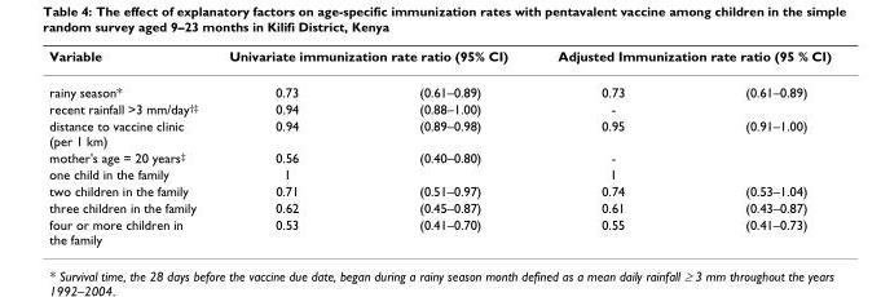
<table><thead><tr><td rowspan="2">Variable rainy season*</td><td colspan="2">Univariate immunization rate ratio (95% CI)</td><td colspan="2">Adjusted Immunization rate ratio (95 % CI)</td></tr><tr><td>0.73</td><td>(0.61–0.89)</td><td>0.73</td><td>(0.61–0.89)</td></tr></thead><tbody><tr><td>recent rainfall &gt;3 mm/day†‡</td><td>0.94</td><td>(0.88–1.00)</td><td>-</td><td></td></tr><tr><td>distance to vaccine clinic (per 1 km)</td><td>0.94</td><td>(0.89–0.98)</td><td>0.95</td><td>(0.91–1.00)</td></tr><tr><td>mother&#x27;s age = 20 years‡</td><td>0.56</td><td>(0.40–0.80)</td><td>-</td><td></td></tr><tr><td>one child in the family</td><td>1</td><td></td><td>1</td><td></td></tr><tr><td>two children in the family</td><td>0.71</td><td>(0.51–0.97)</td><td>0.74</td><td>(0.53–1.04)</td></tr><tr><td>three children in the family</td><td>0.62</td><td>(0.45–0.87)</td><td>0.61</td><td>(0.43–0.87)</td></tr><tr><td>four or more children in the family</td><td>0.53</td><td>(0.41–0.70)</td><td>0.55</td><td>(0.41–0.73)</td></tr></tbody></table>